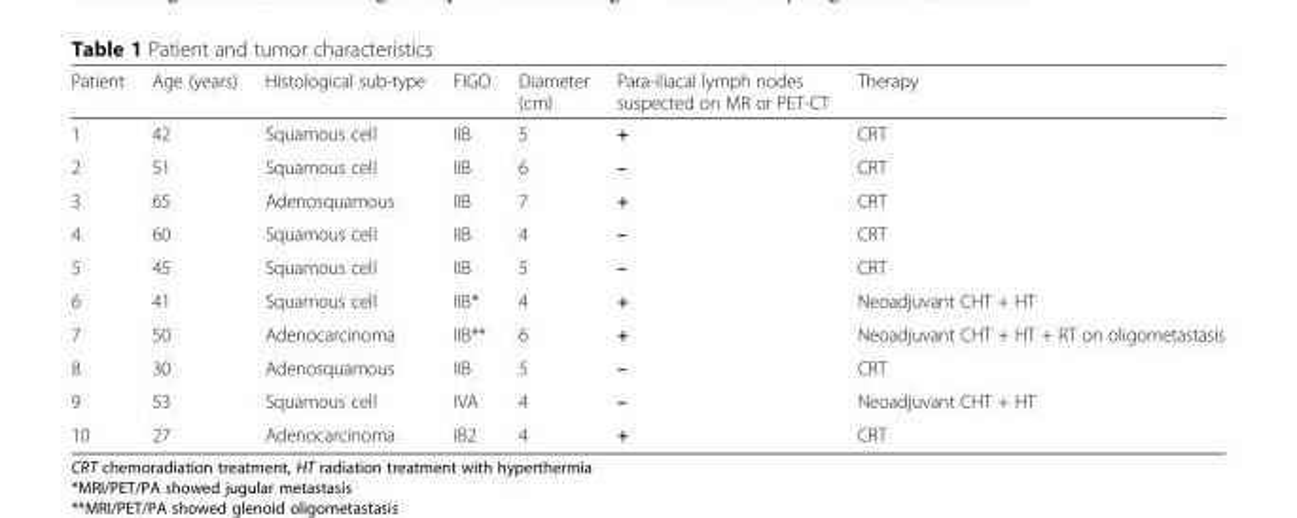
<table><thead><tr><td>Patient</td><td>Age (years)</td><td>Histological sub-type</td><td>FIGO</td><td>Diameter (cm)</td><td>Para-iliacal lymph nodes suspected on MR or PET-CT</td><td>Therapy</td></tr></thead><tbody><tr><td>1</td><td>42</td><td>Squamous cell</td><td>IIB</td><td>5</td><td>+</td><td>CRT</td></tr><tr><td>2</td><td>51</td><td>Squamous cell</td><td>IIB</td><td>6</td><td>–</td><td>CRT</td></tr><tr><td>3</td><td>65</td><td>Adenosquamous</td><td>IIB</td><td>7</td><td>+</td><td>CRT</td></tr><tr><td>4</td><td>60</td><td>Squamous cell</td><td>IIB</td><td>4</td><td>–</td><td>CRT</td></tr><tr><td>5</td><td>45</td><td>Squamous cell</td><td>IIB</td><td>5</td><td>–</td><td>CRT</td></tr><tr><td>6</td><td>41</td><td>Squamous cell</td><td>IIB*</td><td>4</td><td>+</td><td>Neoadjuvant CHT + HT</td></tr><tr><td>7</td><td>50</td><td>Adenocarcinoma</td><td>IIB**</td><td>6</td><td>+</td><td>Neoadjuvant CHT + HT + RT on oligometastasis</td></tr><tr><td>8</td><td>30</td><td>Adenosquamous</td><td>IIB</td><td>5</td><td>–</td><td>CRT</td></tr><tr><td>9</td><td>53</td><td>Squamous cell</td><td>IVA</td><td>4</td><td>–</td><td>Neoadjuvant CHT + HT</td></tr><tr><td>10</td><td>27</td><td>Adenocarcinoma</td><td>IB2</td><td>4</td><td>+</td><td>CRT</td></tr></tbody></table>